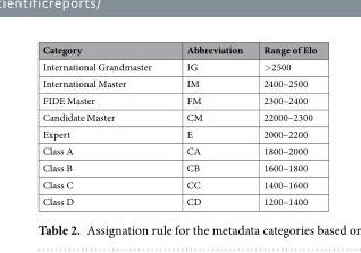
<table><thead><tr><td>Category</td><td>Abbreviation</td><td>Range of Elo</td></tr></thead><tbody><tr><td>International Grandmaster</td><td>IG</td><td>&gt;2500</td></tr><tr><td>International Master</td><td>IM</td><td>2400–2500</td></tr><tr><td>FIDE Master</td><td>FM</td><td>2300–2400</td></tr><tr><td>Candidate Master</td><td>CM</td><td>22000–2300</td></tr><tr><td>Expert</td><td>E</td><td>2000–2200</td></tr><tr><td>Class A</td><td>CA</td><td>1800–2000</td></tr><tr><td>Class B</td><td>CB</td><td>1600–1800</td></tr><tr><td>Class C</td><td>CC</td><td>1400–1600</td></tr><tr><td>Class D</td><td>CD</td><td>1200–1400</td></tr></tbody></table>